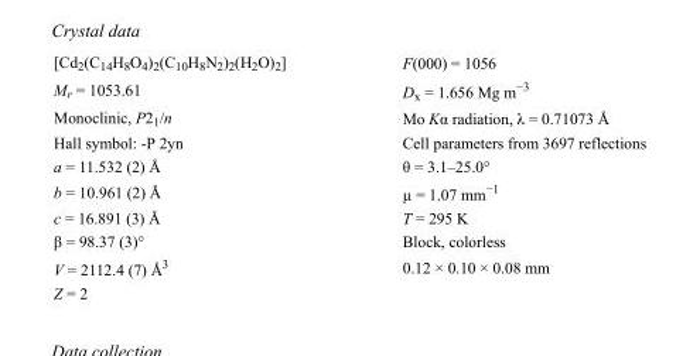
<table><tbody><tr><td>[Cd<sub>2</sub>(C<sub>14</sub>H<sub>8</sub>O<sub>4</sub>)<sub>2</sub>(C<sub>10</sub>H<sub>8</sub>N<sub>2</sub>)<sub>2</sub>(H<sub>2</sub>O)<sub>2</sub>]</td><td>F(000) = 1056</td></tr><tr><td>M<sub>r</sub> = 1053.61</td><td>D<sub>x</sub> = 1.656 Mg m<sup>−3</sup></td></tr><tr><td>Monoclinic, P2<sub>1</sub>/n</td><td>Mo Kα radiation, λ = 0.71073 Å</td></tr><tr><td>Hall symbol: -P 2yn</td><td>Cell parameters from 3697 reflections</td></tr><tr><td>a = 11.532 (2) Å</td><td>θ = 3.1–25.0°</td></tr><tr><td>b = 10.961 (2) Å</td><td>µ = 1.07 mm<sup>−1</sup></td></tr><tr><td>c = 16.891 (3) Å</td><td>T = 295 K</td></tr><tr><td>β = 98.37 (3)°</td><td>Block, colorless</td></tr><tr><td>V = 2112.4 (7) Å<sup>3</sup></td><td>0.12 × 0.10 × 0.08 mm</td></tr><tr><td>Z = 2</td><td></td></tr></tbody></table>